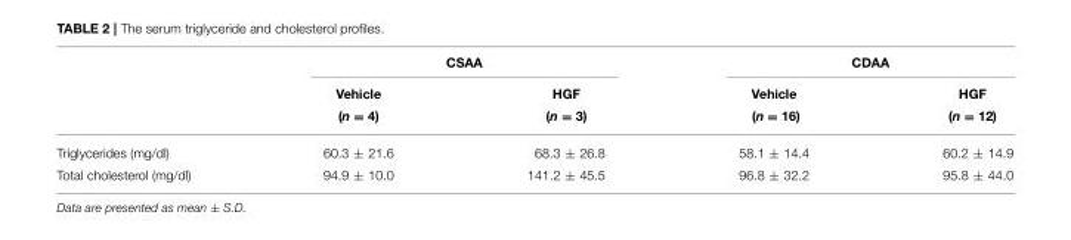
<table><thead><tr><td rowspan="3"></td><td colspan="2">CSAA</td><td colspan="2">CDAA</td></tr><tr><td rowspan="2">Vehicle (n = 4)</td><td rowspan="2">HGF (n = 3)</td><td rowspan="2">Vehicle (n = 16)</td><td rowspan="2">HGF (n = 12)</td></tr><tr></tr></thead><tbody><tr><td>Triglycerides (mg/dl)</td><td>60.3 ± 21.6</td><td>68.3 ± 26.8</td><td>58.1 ± 14.4</td><td>60.2 ± 14.9</td></tr><tr><td>Total cholesterol (mg/dl)</td><td>94.9 ± 10.0</td><td>141.2 ± 45.5</td><td>96.8 ± 32.2</td><td>95.8 ± 44.0</td></tr></tbody></table>